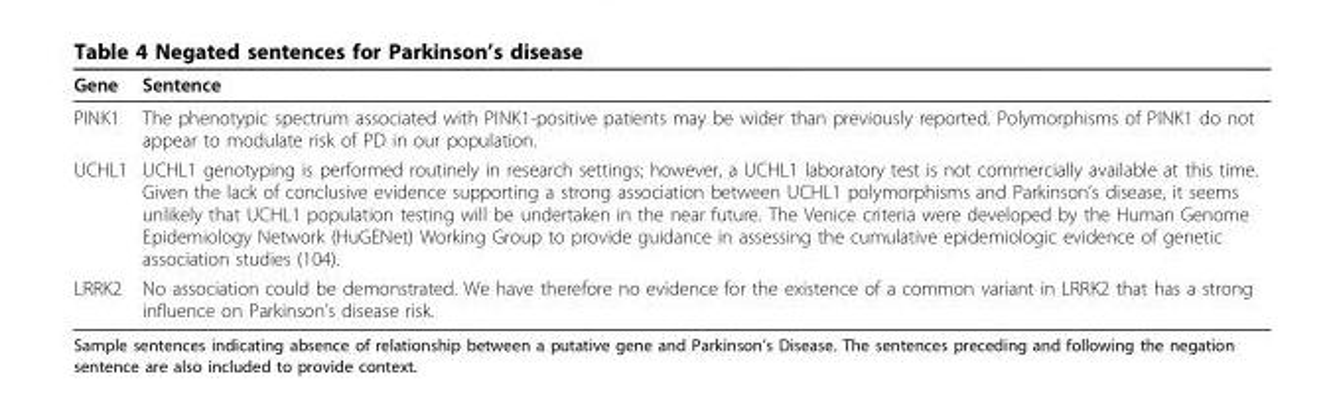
<table><thead><tr><td>Gene</td><td>Sentence</td></tr></thead><tbody><tr><td>PINK1</td><td>The phenotypic spectrum associated with PINK1-positive patients may be wider than previously reported. Polymorphisms of PINK1 do not appear to modulate risk of PD in our population.</td></tr><tr><td>UCHL1</td><td>UCHL1 genotyping is performed routinely in research settings; however, a UCHL1 laboratory test is not commercially available at this time. Given the lack of conclusive evidence supporting a strong association between UCHL1 polymorphisms and Parkinson’s disease, it seems unlikely that UCHL1 population testing will be undertaken in the near future. The Venice criteria were developed by the Human Genome Epidemiology Network (HuGENet) Working Group to provide guidance in assessing the cumulative epidemiologic evidence of genetic association studies (104).</td></tr><tr><td>LRRK2</td><td>No association could be demonstrated. We have therefore no evidence for the existence of a common variant in LRRK2 that has a strong influence on Parkinson’s disease risk.</td></tr></tbody></table>